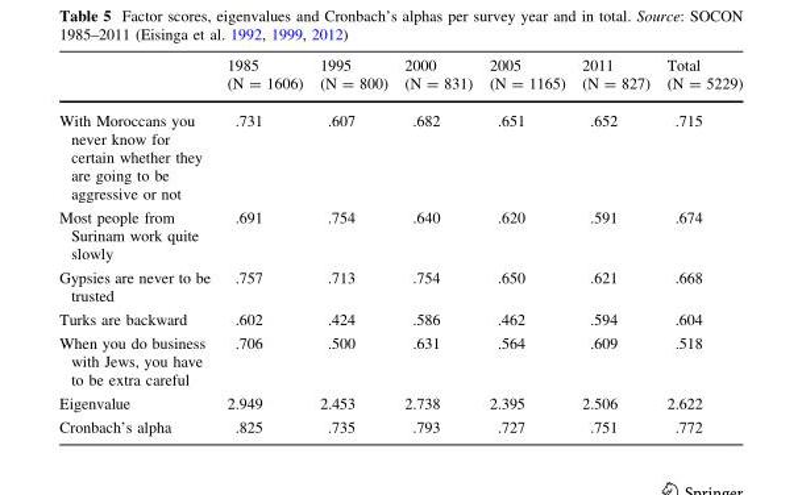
<table><thead><tr><td></td><td>1985 (N = 1606)</td><td>1995 (N = 800)</td><td>2000 (N = 831)</td><td>2005 (N = 1165)</td><td>2011 (N = 827)</td><td>Total (N = 5229)</td></tr></thead><tbody><tr><td>With Moroccans you never know for certain whether they are going to be aggressive or not</td><td>.731</td><td>.607</td><td>.682</td><td>.651</td><td>.652</td><td>.715</td></tr><tr><td>Most people from Surinam work quite slowly</td><td>.691</td><td>.754</td><td>.640</td><td>.620</td><td>.591</td><td>.674</td></tr><tr><td>Gypsies are never to be trusted</td><td>.757</td><td>.713</td><td>.754</td><td>.650</td><td>.621</td><td>.668</td></tr><tr><td>Turks are backward</td><td>.602</td><td>.424</td><td>.586</td><td>.462</td><td>.594</td><td>.604</td></tr><tr><td>When you do business with Jews, you have to be extra careful</td><td>.706</td><td>.500</td><td>.631</td><td>.564</td><td>.609</td><td>.518</td></tr><tr><td>Eigenvalue</td><td>2.949</td><td>2.453</td><td>2.738</td><td>2.395</td><td>2.506</td><td>2.622</td></tr><tr><td>Cronbach’s alpha</td><td>.825</td><td>.735</td><td>.793</td><td>.727</td><td>.751</td><td>.772</td></tr></tbody></table>